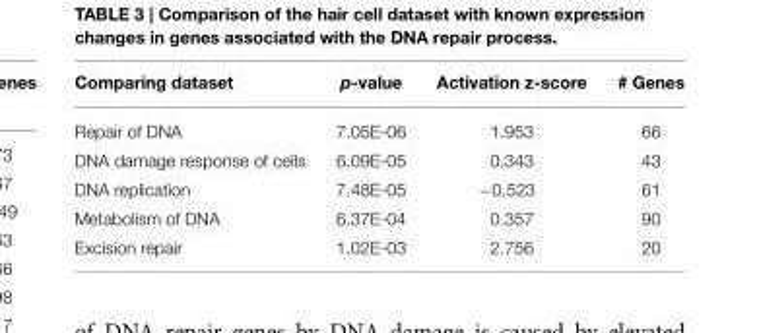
<table><thead><tr><td>Comparing dataset</td><td>p-value</td><td>Activation z-score</td><td># Genes</td></tr></thead><tbody><tr><td>Repair of DNA</td><td>7.05E-06</td><td>1.953</td><td>66</td></tr><tr><td>DNA damage response of cells</td><td>6.09E-05</td><td>0.343</td><td>43</td></tr><tr><td>DNA replication</td><td>7.48E-05</td><td>−0.523</td><td>61</td></tr><tr><td>Metabolism of DNA</td><td>6.37E-04</td><td>0.357</td><td>90</td></tr><tr><td>Excision repair</td><td>1.02E-03</td><td>2.756</td><td>20</td></tr></tbody></table>